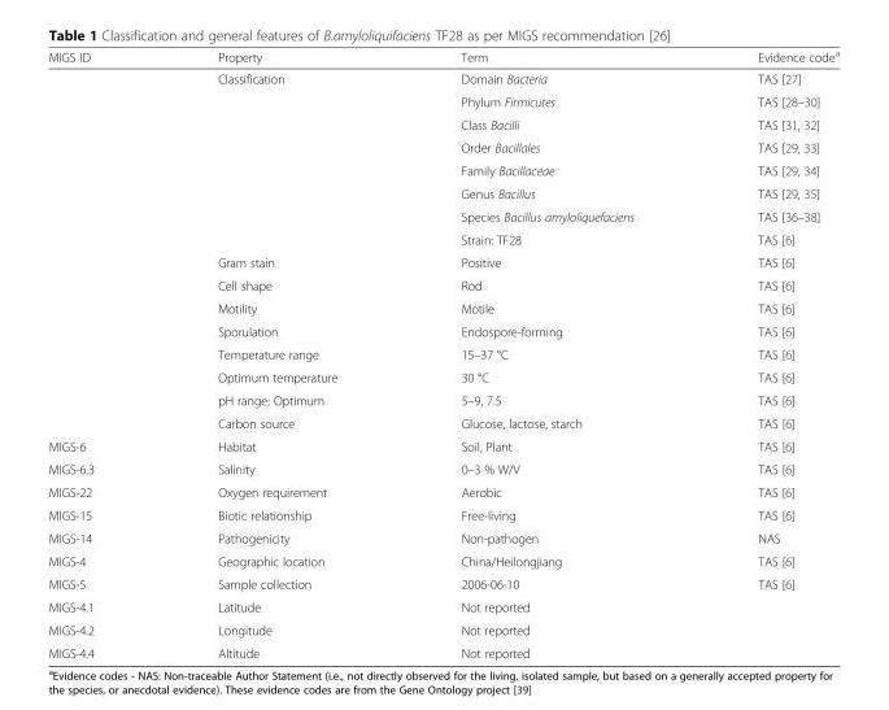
<table><thead><tr><td>MIGS ID</td><td>Property</td><td>Term</td><td>Evidence code<sup>a</sup></td></tr></thead><tbody><tr><td></td><td>Classification</td><td>Domain Bacteria</td><td>TAS [27]</td></tr><tr><td></td><td></td><td>Phylum Firmicutes</td><td>TAS [28–30]</td></tr><tr><td></td><td></td><td>Class Bacilli</td><td>TAS [31, 32]</td></tr><tr><td></td><td></td><td>Order Bacillales</td><td>TAS [29, 33]</td></tr><tr><td></td><td></td><td>Family Bacillaceae</td><td>TAS [29, 34]</td></tr><tr><td></td><td></td><td>Genus Bacillus</td><td>TAS [29, 35]</td></tr><tr><td></td><td></td><td>Species Bacillus amyloliquefaciens</td><td>TAS [36–38]</td></tr><tr><td></td><td></td><td>Strain: TF28</td><td>TAS [6]</td></tr><tr><td></td><td>Gram stain</td><td>Positive</td><td>TAS [6]</td></tr><tr><td></td><td>Cell shape</td><td>Rod</td><td>TAS [6]</td></tr><tr><td></td><td>Motility</td><td>Motile</td><td>TAS [6]</td></tr><tr><td></td><td>Sporulation</td><td>Endospore-forming</td><td>TAS [6]</td></tr><tr><td></td><td>Temperature range</td><td>15–37 °C</td><td>TAS [6]</td></tr><tr><td></td><td>Optimum temperature</td><td>30 °C</td><td>TAS [6]</td></tr><tr><td></td><td>pH range; Optimum</td><td>5–9, 7.5</td><td>TAS [6]</td></tr><tr><td></td><td>Carbon source</td><td>Glucose, lactose, starch</td><td>TAS [6]</td></tr><tr><td>MIGS-6</td><td>Habitat</td><td>Soil, Plant</td><td>TAS [6]</td></tr><tr><td>MIGS-6.3</td><td>Salinity</td><td>0–3 % W/V</td><td>TAS [6]</td></tr><tr><td>MIGS-22</td><td>Oxygen requirement</td><td>Aerobic</td><td>TAS [6]</td></tr><tr><td>MIGS-15</td><td>Biotic relationship</td><td>Free-living</td><td>TAS [6]</td></tr><tr><td>MIGS-14</td><td>Pathogenicity</td><td>Non-pathogen</td><td>NAS</td></tr><tr><td>MIGS-4</td><td>Geographic location</td><td>China/Heilongjiang</td><td>TAS [6]</td></tr><tr><td>MIGS-5</td><td>Sample collection</td><td>2006-06-10</td><td>TAS [6]</td></tr><tr><td>MIGS-4.1</td><td>Latitude</td><td>Not reported</td><td></td></tr><tr><td>MIGS-4.2</td><td>Longitude</td><td>Not reported</td><td></td></tr><tr><td>MIGS-4.4</td><td>Altitude</td><td>Not reported</td><td></td></tr></tbody></table>